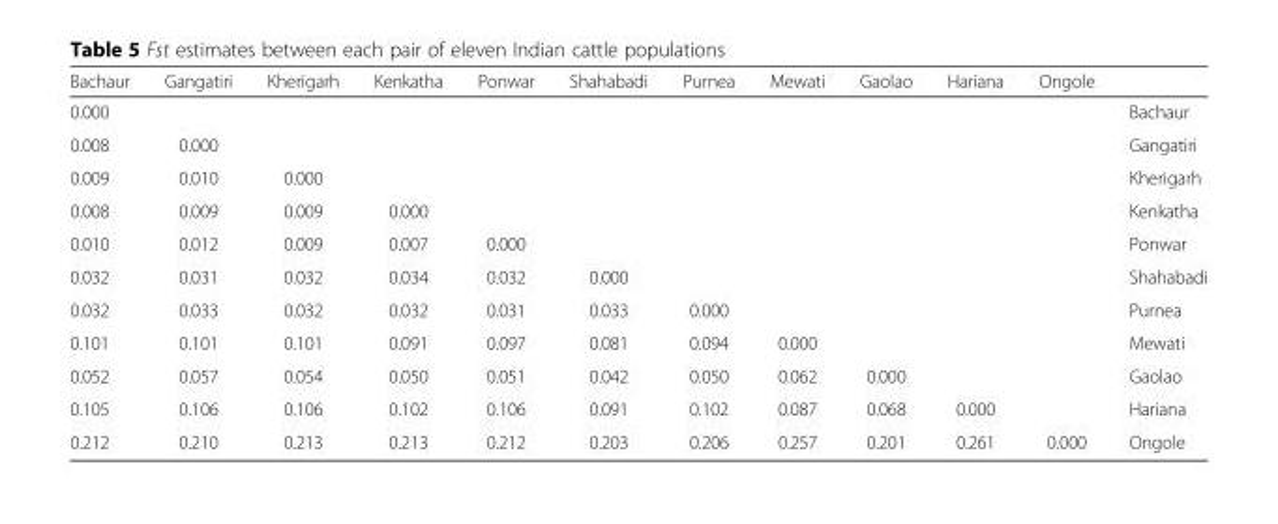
<table><thead><tr><td>Bachaur</td><td>Gangatiri</td><td>Kherigarh</td><td>Kenkatha</td><td>Ponwar</td><td>Shahabadi</td><td>Purnea</td><td>Mewati</td><td>Gaolao</td><td>Hariana</td><td>Ongole</td><td></td></tr></thead><tbody><tr><td>0.000</td><td></td><td></td><td></td><td></td><td></td><td></td><td></td><td></td><td></td><td></td><td>Bachaur</td></tr><tr><td>0.008</td><td>0.000</td><td></td><td></td><td></td><td></td><td></td><td></td><td></td><td></td><td></td><td>Gangatiri</td></tr><tr><td>0.009</td><td>0.010</td><td>0.000</td><td></td><td></td><td></td><td></td><td></td><td></td><td></td><td></td><td>Kherigarh</td></tr><tr><td>0.008</td><td>0.009</td><td>0.009</td><td>0.000</td><td></td><td></td><td></td><td></td><td></td><td></td><td></td><td>Kenkatha</td></tr><tr><td>0.010</td><td>0.012</td><td>0.009</td><td>0.007</td><td>0.000</td><td></td><td></td><td></td><td></td><td></td><td></td><td>Ponwar</td></tr><tr><td>0.032</td><td>0.031</td><td>0.032</td><td>0.034</td><td>0.032</td><td>0.000</td><td></td><td></td><td></td><td></td><td></td><td>Shahabadi</td></tr><tr><td>0.032</td><td>0.033</td><td>0.032</td><td>0.032</td><td>0.031</td><td>0.033</td><td>0.000</td><td></td><td></td><td></td><td></td><td>Purnea</td></tr><tr><td>0.101</td><td>0.101</td><td>0.101</td><td>0.091</td><td>0.097</td><td>0.081</td><td>0.094</td><td>0.000</td><td></td><td></td><td></td><td>Mewati</td></tr><tr><td>0.052</td><td>0.057</td><td>0.054</td><td>0.050</td><td>0.051</td><td>0.042</td><td>0.050</td><td>0.062</td><td>0.000</td><td></td><td></td><td>Gaolao</td></tr><tr><td>0.105</td><td>0.106</td><td>0.106</td><td>0.102</td><td>0.106</td><td>0.091</td><td>0.102</td><td>0.087</td><td>0.068</td><td>0.000</td><td></td><td>Hariana</td></tr><tr><td>0.212</td><td>0.210</td><td>0.213</td><td>0.213</td><td>0.212</td><td>0.203</td><td>0.206</td><td>0.257</td><td>0.201</td><td>0.261</td><td>0.000</td><td>Ongole</td></tr></tbody></table>